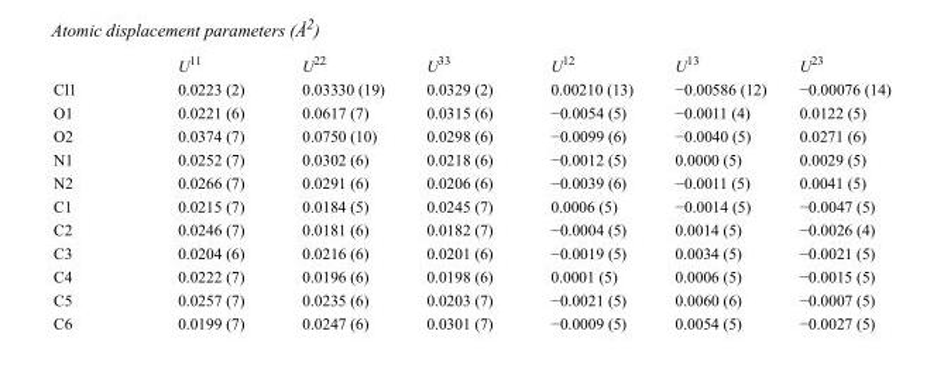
<table><thead><tr><td></td><td>U<sup>11</sup></td><td>U<sup>22</sup></td><td>U<sup>33</sup></td><td>U<sup>12</sup></td><td>U<sup>13</sup></td><td>U<sup>23</sup></td></tr></thead><tbody><tr><td>Cl1</td><td>0.0223 (2)</td><td>0.03330 (19)</td><td>0.0329 (2)</td><td>0.00210 (13)</td><td>−0.00586 (12)</td><td>−0.00076 (14)</td></tr><tr><td>O1</td><td>0.0221 (6)</td><td>0.0617 (7)</td><td>0.0315 (6)</td><td>−0.0054 (5)</td><td>−0.0011 (4)</td><td>0.0122 (5)</td></tr><tr><td>O2</td><td>0.0374 (7)</td><td>0.0750 (10)</td><td>0.0298 (6)</td><td>−0.0099 (6)</td><td>−0.0040 (5)</td><td>0.0271 (6)</td></tr><tr><td>N1</td><td>0.0252 (7)</td><td>0.0302 (6)</td><td>0.0218 (6)</td><td>−0.0012 (5)</td><td>0.0000 (5)</td><td>0.0029 (5)</td></tr><tr><td>N2</td><td>0.0266 (7)</td><td>0.0291 (6)</td><td>0.0206 (6)</td><td>−0.0039 (6)</td><td>−0.0011 (5)</td><td>0.0041 (5)</td></tr><tr><td>C1</td><td>0.0215 (7)</td><td>0.0184 (5)</td><td>0.0245 (7)</td><td>0.0006 (5)</td><td>−0.0014 (5)</td><td>−0.0047 (5)</td></tr><tr><td>C2</td><td>0.0246 (7)</td><td>0.0181 (6)</td><td>0.0182 (7)</td><td>−0.0004 (5)</td><td>0.0014 (5)</td><td>−0.0026 (4)</td></tr><tr><td>C3</td><td>0.0204 (6)</td><td>0.0216 (6)</td><td>0.0201 (6)</td><td>−0.0019 (5)</td><td>0.0034 (5)</td><td>−0.0021 (5)</td></tr><tr><td>C4</td><td>0.0222 (7)</td><td>0.0196 (6)</td><td>0.0198 (6)</td><td>0.0001 (5)</td><td>0.0006 (5)</td><td>−0.0015 (5)</td></tr><tr><td>C5</td><td>0.0257 (7)</td><td>0.0235 (6)</td><td>0.0203 (7)</td><td>−0.0021 (5)</td><td>0.0060 (6)</td><td>−0.0007 (5)</td></tr><tr><td>C6</td><td>0.0199 (7)</td><td>0.0247 (6)</td><td>0.0301 (7)</td><td>−0.0009 (5)</td><td>0.0054 (5)</td><td>−0.0027 (5)</td></tr></tbody></table>